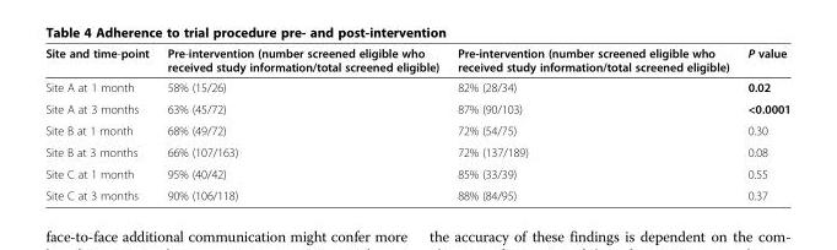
<table><thead><tr><td>Site and time-point</td><td>Pre-intervention (number screened eligible who received study information/total screened eligible)</td><td>Pre-intervention (number screened eligible who received study information/total screened eligible)</td><td>P value</td></tr></thead><tbody><tr><td>Site A at 1 month</td><td>58% (15/26)</td><td>82% (28/34)</td><td>0.02</td></tr><tr><td>Site A at 3 months</td><td>63% (45/72)</td><td>87% (90/103)</td><td>&lt;0.0001</td></tr><tr><td>Site B at 1 month</td><td>68% (49/72)</td><td>72% (54/75)</td><td>0.30</td></tr><tr><td>Site B at 3 months</td><td>66% (107/163)</td><td>72% (137/189)</td><td>0.08</td></tr><tr><td>Site C at 1 month</td><td>95% (40/42)</td><td>85% (33/39)</td><td>0.55</td></tr><tr><td>Site C at 3 months</td><td>90% (106/118)</td><td>88% (84/95)</td><td>0.37</td></tr></tbody></table>